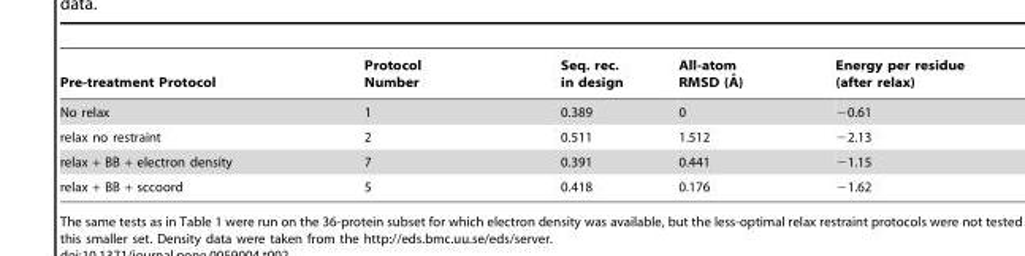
<table><thead><tr><td>Pre-treatment Protocol</td><td>Protocol Number</td><td>Seq. rec. in design</td><td>All-atom RMSD (A˚)</td><td>Energy per residue (after relax)</td></tr></thead><tbody><tr><td>No relax</td><td>1</td><td>0.389</td><td>0</td><td>−0.61</td></tr><tr><td>relax no restraint</td><td>2</td><td>0.511</td><td>1.512</td><td>−2.13</td></tr><tr><td>relax + BB + electron density</td><td>7</td><td>0.391</td><td>0.441</td><td>−1.15</td></tr><tr><td>relax + BB + sccoord</td><td>5</td><td>0.418</td><td>0.176</td><td>−1.62</td></tr></tbody></table>